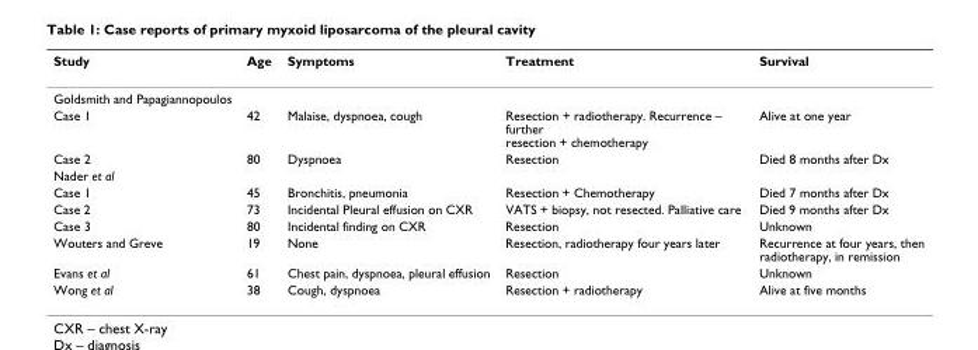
<table><thead><tr><td>Study</td><td>Age</td><td>Symptoms</td><td>Treatment</td><td>Survival</td></tr></thead><tbody><tr><td colspan="5">Goldsmith and Papagiannopoulos</td></tr><tr><td>Case 1</td><td>42</td><td>Malaise, dyspnoea, cough</td><td>Resection + radiotherapy. Recurrence – further resection + chemotherapy</td><td>Alive at one year</td></tr><tr><td>Case 2</td><td>80</td><td>Dyspnoea</td><td>Resection</td><td>Died 8 months after Dx</td></tr><tr><td colspan="5">Nader et al</td></tr><tr><td>Case 1</td><td>45</td><td>Bronchitis, pneumonia</td><td>Resection + Chemotherapy</td><td>Died 7 months after Dx</td></tr><tr><td>Case 2</td><td>73</td><td>Incidental Pleural effusion on CXR</td><td>VATS + biopsy, not resected. Palliative care</td><td>Died 9 months after Dx</td></tr><tr><td>Case 3</td><td>80</td><td>Incidental finding on CXR</td><td>Resection</td><td>Unknown</td></tr><tr><td>Wouters and Greve</td><td>19</td><td>None</td><td>Resection, radiotherapy four years later</td><td>Recurrence at four years, then radiotherapy, in remission</td></tr><tr><td>Evans et al</td><td>61</td><td>Chest pain, dyspnoea, pleural effusion</td><td>Resection</td><td>Unknown</td></tr><tr><td>Wong et al</td><td>38</td><td>Cough, dyspnoea</td><td>Resection + radiotherapy</td><td>Alive at five months</td></tr></tbody></table>